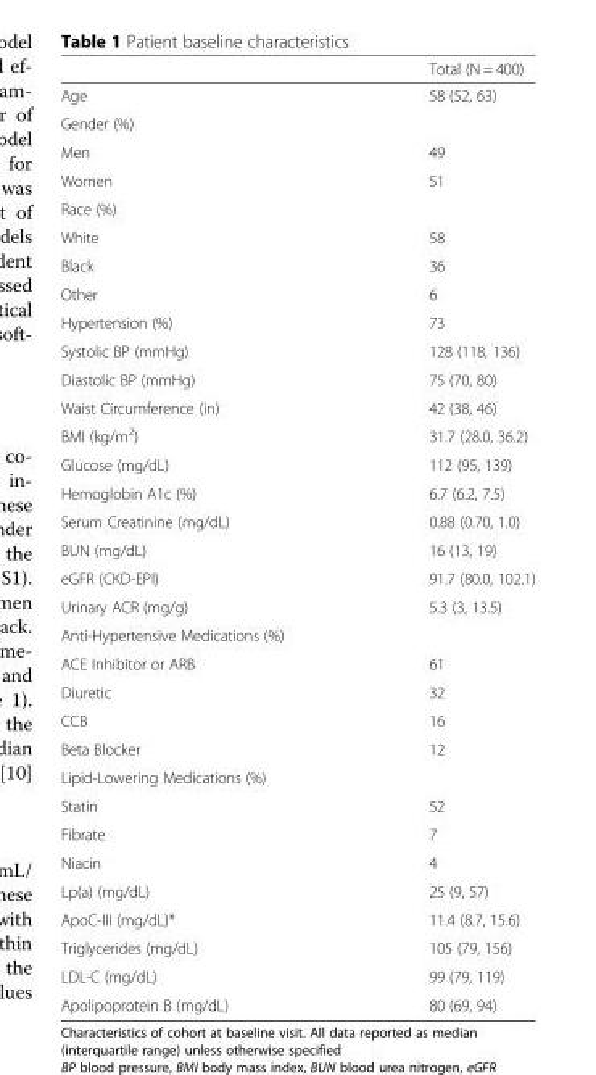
<table><thead><tr><td></td><td>Total (N = 400)</td></tr></thead><tbody><tr><td>Age</td><td>58 (52, 63)</td></tr><tr><td colspan="2">Gender (%)</td></tr><tr><td>Men</td><td>49</td></tr><tr><td>Women</td><td>51</td></tr><tr><td colspan="2">Race (%)</td></tr><tr><td>White</td><td>58</td></tr><tr><td>Black</td><td>36</td></tr><tr><td>Other</td><td>6</td></tr><tr><td>Hypertension (%)</td><td>73</td></tr><tr><td>Systolic BP (mmHg)</td><td>128 (118, 136)</td></tr><tr><td>Diastolic BP (mmHg)</td><td>75 (70, 80)</td></tr><tr><td>Waist Circumference (in)</td><td>42 (38, 46)</td></tr><tr><td>BMI (kg/m<sup>2</sup>)</td><td>31.7 (28.0, 36.2)</td></tr><tr><td>Glucose (mg/dL)</td><td>112 (95, 139)</td></tr><tr><td>Hemoglobin A1c (%)</td><td>6.7 (6.2, 7.5)</td></tr><tr><td>Serum Creatinine (mg/dL)</td><td>0.88 (0.70, 1.0)</td></tr><tr><td>BUN (mg/dL)</td><td>16 (13, 19)</td></tr><tr><td>eGFR (CKD-EPI)</td><td>91.7 (80.0, 102.1)</td></tr><tr><td>Urinary ACR (mg/g)</td><td>5.3 (3, 13.5)</td></tr><tr><td colspan="2">Anti-Hypertensive Medications (%)</td></tr><tr><td>ACE Inhibitor or ARB</td><td>61</td></tr><tr><td>Diuretic</td><td>32</td></tr><tr><td>CCB</td><td>16</td></tr><tr><td>Beta Blocker</td><td>12</td></tr><tr><td colspan="2">Lipid-Lowering Medications (%)</td></tr><tr><td>Statin</td><td>52</td></tr><tr><td>Fibrate</td><td>7</td></tr><tr><td>Niacin</td><td>4</td></tr><tr><td>Lp(a) (mg/dL)</td><td>25 (9, 57)</td></tr><tr><td>ApoC-III (mg/dL)*</td><td>11.4 (8.7, 15.6)</td></tr><tr><td>Triglycerides (mg/dL)</td><td>105 (79, 156)</td></tr><tr><td>LDL-C (mg/dL)</td><td>99 (79, 119)</td></tr><tr><td>Apolipoprotein B (mg/dL)</td><td>80 (69, 94)</td></tr></tbody></table>